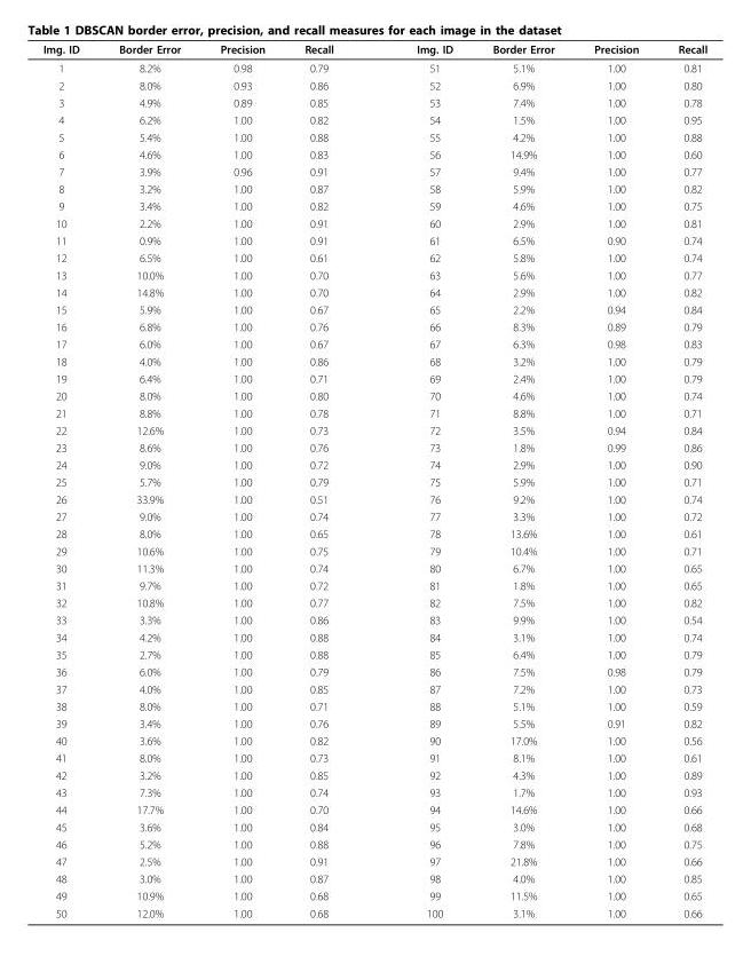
<table><thead><tr><td>Img. ID</td><td>Border Error</td><td>Precision</td><td>Recall</td><td>Img. ID</td><td>Border Error</td><td>Precision</td><td>Recall</td></tr></thead><tbody><tr><td>1</td><td>8.2%</td><td>0.98</td><td>0.79</td><td>51</td><td>5.1%</td><td>1.00</td><td>0.81</td></tr><tr><td>2</td><td>8.0%</td><td>0.93</td><td>0.86</td><td>52</td><td>6.9%</td><td>1.00</td><td>0.80</td></tr><tr><td>3</td><td>4.9%</td><td>0.89</td><td>0.85</td><td>53</td><td>7.4%</td><td>1.00</td><td>0.78</td></tr><tr><td>4</td><td>6.2%</td><td>1.00</td><td>0.82</td><td>54</td><td>1.5%</td><td>1.00</td><td>0.95</td></tr><tr><td>5</td><td>5.4%</td><td>1.00</td><td>0.88</td><td>55</td><td>4.2%</td><td>1.00</td><td>0.88</td></tr><tr><td>6</td><td>4.6%</td><td>1.00</td><td>0.83</td><td>56</td><td>14.9%</td><td>1.00</td><td>0.60</td></tr><tr><td>7</td><td>3.9%</td><td>0.96</td><td>0.91</td><td>57</td><td>9.4%</td><td>1.00</td><td>0.77</td></tr><tr><td>8</td><td>3.2%</td><td>1.00</td><td>0.87</td><td>58</td><td>5.9%</td><td>1.00</td><td>0.82</td></tr><tr><td>9</td><td>3.4%</td><td>1.00</td><td>0.82</td><td>59</td><td>4.6%</td><td>1.00</td><td>0.75</td></tr><tr><td>10</td><td>2.2%</td><td>1.00</td><td>0.91</td><td>60</td><td>2.9%</td><td>1.00</td><td>0.81</td></tr><tr><td>11</td><td>0.9%</td><td>1.00</td><td>0.91</td><td>61</td><td>6.5%</td><td>0.90</td><td>0.74</td></tr><tr><td>12</td><td>6.5%</td><td>1.00</td><td>0.61</td><td>62</td><td>5.8%</td><td>1.00</td><td>0.74</td></tr><tr><td>13</td><td>10.0%</td><td>1.00</td><td>0.70</td><td>63</td><td>5.6%</td><td>1.00</td><td>0.77</td></tr><tr><td>14</td><td>14.8%</td><td>1.00</td><td>0.70</td><td>64</td><td>2.9%</td><td>1.00</td><td>0.82</td></tr><tr><td>15</td><td>5.9%</td><td>1.00</td><td>0.67</td><td>65</td><td>2.2%</td><td>0.94</td><td>0.84</td></tr><tr><td>16</td><td>6.8%</td><td>1.00</td><td>0.76</td><td>66</td><td>8.3%</td><td>0.89</td><td>0.79</td></tr><tr><td>17</td><td>6.0%</td><td>1.00</td><td>0.67</td><td>67</td><td>6.3%</td><td>0.98</td><td>0.83</td></tr><tr><td>18</td><td>4.0%</td><td>1.00</td><td>0.86</td><td>68</td><td>3.2%</td><td>1.00</td><td>0.79</td></tr><tr><td>19</td><td>6.4%</td><td>1.00</td><td>0.71</td><td>69</td><td>2.4%</td><td>1.00</td><td>0.79</td></tr><tr><td>20</td><td>8.0%</td><td>1.00</td><td>0.80</td><td>70</td><td>4.6%</td><td>1.00</td><td>0.74</td></tr><tr><td>21</td><td>8.8%</td><td>1.00</td><td>0.78</td><td>71</td><td>8.8%</td><td>1.00</td><td>0.71</td></tr><tr><td>22</td><td>12.6%</td><td>1.00</td><td>0.73</td><td>72</td><td>3.5%</td><td>0.94</td><td>0.84</td></tr><tr><td>23</td><td>8.6%</td><td>1.00</td><td>0.76</td><td>73</td><td>1.8%</td><td>0.99</td><td>0.86</td></tr><tr><td>24</td><td>9.0%</td><td>1.00</td><td>0.72</td><td>74</td><td>2.9%</td><td>1.00</td><td>0.90</td></tr><tr><td>25</td><td>5.7%</td><td>1.00</td><td>0.79</td><td>75</td><td>5.9%</td><td>1.00</td><td>0.71</td></tr><tr><td>26</td><td>33.9%</td><td>1.00</td><td>0.51</td><td>76</td><td>9.2%</td><td>1.00</td><td>0.74</td></tr><tr><td>27</td><td>9.0%</td><td>1.00</td><td>0.74</td><td>77</td><td>3.3%</td><td>1.00</td><td>0.72</td></tr><tr><td>28</td><td>8.0%</td><td>1.00</td><td>0.65</td><td>78</td><td>13.6%</td><td>1.00</td><td>0.61</td></tr><tr><td>29</td><td>10.6%</td><td>1.00</td><td>0.75</td><td>79</td><td>10.4%</td><td>1.00</td><td>0.71</td></tr><tr><td>30</td><td>11.3%</td><td>1.00</td><td>0.74</td><td>80</td><td>6.7%</td><td>1.00</td><td>0.65</td></tr><tr><td>31</td><td>9.7%</td><td>1.00</td><td>0.72</td><td>81</td><td>1.8%</td><td>1.00</td><td>0.65</td></tr><tr><td>32</td><td>10.8%</td><td>1.00</td><td>0.77</td><td>82</td><td>7.5%</td><td>1.00</td><td>0.82</td></tr><tr><td>33</td><td>3.3%</td><td>1.00</td><td>0.86</td><td>83</td><td>9.9%</td><td>1.00</td><td>0.54</td></tr><tr><td>34</td><td>4.2%</td><td>1.00</td><td>0.88</td><td>84</td><td>3.1%</td><td>1.00</td><td>0.74</td></tr><tr><td>35</td><td>2.7%</td><td>1.00</td><td>0.88</td><td>85</td><td>6.4%</td><td>1.00</td><td>0.79</td></tr><tr><td>36</td><td>6.0%</td><td>1.00</td><td>0.79</td><td>86</td><td>7.5%</td><td>0.98</td><td>0.79</td></tr><tr><td>37</td><td>4.0%</td><td>1.00</td><td>0.85</td><td>87</td><td>7.2%</td><td>1.00</td><td>0.73</td></tr><tr><td>38</td><td>8.0%</td><td>1.00</td><td>0.71</td><td>88</td><td>5.1%</td><td>1.00</td><td>0.59</td></tr><tr><td>39</td><td>3.4%</td><td>1.00</td><td>0.76</td><td>89</td><td>5.5%</td><td>0.91</td><td>0.82</td></tr><tr><td>40</td><td>3.6%</td><td>1.00</td><td>0.82</td><td>90</td><td>17.0%</td><td>1.00</td><td>0.56</td></tr><tr><td>41</td><td>8.0%</td><td>1.00</td><td>0.73</td><td>91</td><td>8.1%</td><td>1.00</td><td>0.61</td></tr><tr><td>42</td><td>3.2%</td><td>1.00</td><td>0.85</td><td>92</td><td>4.3%</td><td>1.00</td><td>0.89</td></tr><tr><td>43</td><td>7.3%</td><td>1.00</td><td>0.74</td><td>93</td><td>1.7%</td><td>1.00</td><td>0.93</td></tr><tr><td>44</td><td>17.7%</td><td>1.00</td><td>0.70</td><td>94</td><td>14.6%</td><td>1.00</td><td>0.66</td></tr><tr><td>45</td><td>3.6%</td><td>1.00</td><td>0.84</td><td>95</td><td>3.0%</td><td>1.00</td><td>0.68</td></tr><tr><td>46</td><td>5.2%</td><td>1.00</td><td>0.88</td><td>96</td><td>7.8%</td><td>1.00</td><td>0.75</td></tr><tr><td>47</td><td>2.5%</td><td>1.00</td><td>0.91</td><td>97</td><td>21.8%</td><td>1.00</td><td>0.66</td></tr><tr><td>48</td><td>3.0%</td><td>1.00</td><td>0.87</td><td>98</td><td>4.0%</td><td>1.00</td><td>0.85</td></tr><tr><td>49</td><td>10.9%</td><td>1.00</td><td>0.68</td><td>99</td><td>11.5%</td><td>1.00</td><td>0.65</td></tr><tr><td>50</td><td>12.0%</td><td>1.00</td><td>0.68</td><td>100</td><td>3.1%</td><td>1.00</td><td>0.66</td></tr></tbody></table>